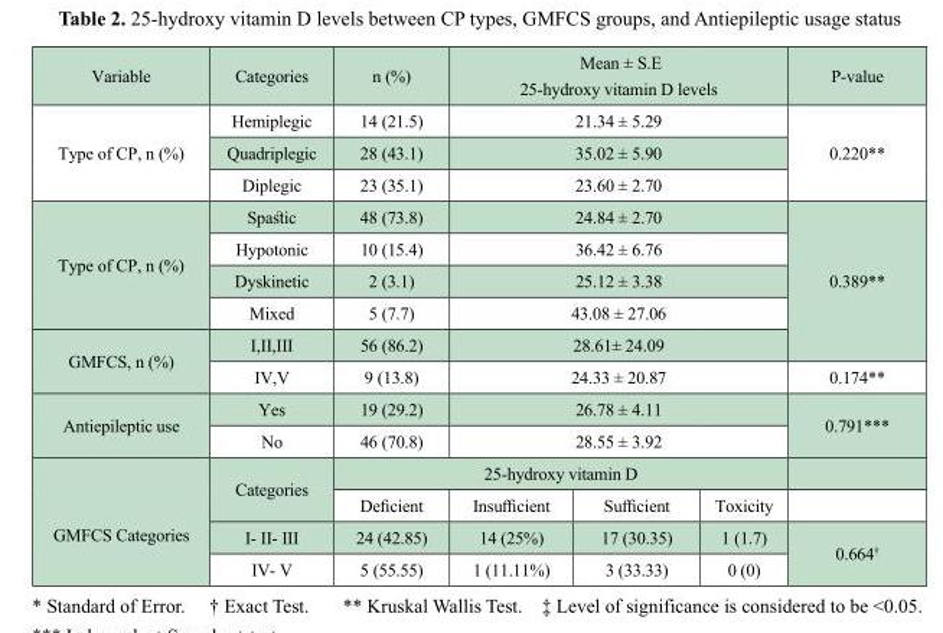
<table><thead><tr><td>Variable</td><td>Categories</td><td>n (%)</td><td colspan="3">Mean ± S.E 25-hydroxy vitamin D levels</td><td>P-value</td></tr></thead><tbody><tr><td rowspan="3">Type of CP, n (%)</td><td>Hemiplegic</td><td>14 (21.5)</td><td colspan="3">21.34 ± 5.29</td><td rowspan="3">0.220**</td></tr><tr><td>Quadriplegic</td><td>28 (43.1)</td><td colspan="3">35.02 ± 5.90</td></tr><tr><td>Diplegic</td><td>23 (35.1)</td><td colspan="3">23.60 ± 2.70</td></tr><tr><td rowspan="4">Type of CP, n (%)</td><td>Spastic</td><td>48 (73.8)</td><td colspan="3">24.84 ± 2.70</td><td rowspan="5">0.389**</td></tr><tr><td>Hypotonic</td><td>10 (15.4)</td><td colspan="3">36.42 ± 6.76</td></tr><tr><td>Dyskinetic</td><td>2 (3.1)</td><td colspan="3">25.12 ± 3.38</td></tr><tr><td>Mixed</td><td>5 (7.7)</td><td colspan="3">43.08 ± 27.06</td></tr><tr><td rowspan="2">GMFCS, n (%)</td><td>I,II,III</td><td>56 (86.2)</td><td colspan="3">28.61± 24.09</td></tr><tr><td>IV,V</td><td>9 (13.8)</td><td colspan="3">24.33 ± 20.87</td><td>0.174**</td></tr><tr><td rowspan="2">Antiepileptic use</td><td>Yes</td><td>19 (29.2)</td><td colspan="3">26.78 ± 4.11</td><td rowspan="2">0.791***</td></tr><tr><td>No</td><td>46 (70.8)</td><td colspan="3">28.55 ± 3.92</td></tr><tr><td rowspan="4">GMFCS Categories</td><td rowspan="2">Categories</td><td colspan="4">25-hydroxy vitamin D</td><td></td></tr><tr><td>Deficient</td><td>Insufficient</td><td>Sufficient</td><td>Toxicity</td><td></td></tr><tr><td>I- II- III</td><td>24 (42.85)</td><td>14 (25%)</td><td>17 (30.35)</td><td>1 (1.7)</td><td rowspan="2">0.664†</td></tr><tr><td>IV- V</td><td>5 (55.55)</td><td>1 (11.11%)</td><td>3 (33.33)</td><td>0 (0)</td></tr></tbody></table>